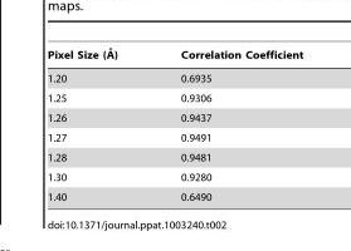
<table><thead><tr><td>Pixel Size (A˚ )</td><td>Correlation Coefficient</td></tr></thead><tbody><tr><td>1.20</td><td>0.6935</td></tr><tr><td>1.25</td><td>0.9306</td></tr><tr><td>1.26</td><td>0.9437</td></tr><tr><td>1.27</td><td>0.9491</td></tr><tr><td>1.28</td><td>0.9481</td></tr><tr><td>1.30</td><td>0.9280</td></tr><tr><td>1.40</td><td>0.6490</td></tr></tbody></table>